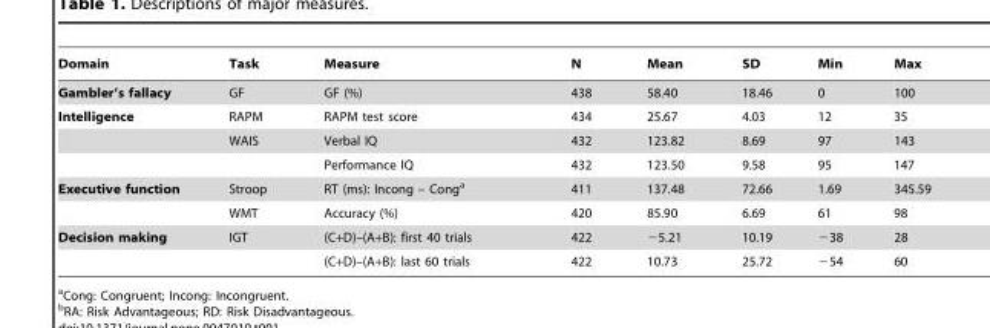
<table><thead><tr><td>Domain</td><td>Task</td><td>Measure</td><td>N</td><td>Mean</td><td>SD</td><td>Min</td><td>Max</td></tr></thead><tbody><tr><td>Gambler’s fallacy</td><td>GF</td><td>GF (%)</td><td>438</td><td>58.40</td><td>18.46</td><td>0</td><td>100</td></tr><tr><td rowspan="3">Intelligence</td><td>RAPM</td><td>RAPM test score</td><td>434</td><td>25.67</td><td>4.03</td><td>12</td><td>35</td></tr><tr><td>WAIS</td><td>Verbal IQ</td><td>432</td><td>123.82</td><td>8.69</td><td>97</td><td>143</td></tr><tr><td></td><td>Performance IQ</td><td>432</td><td>123.50</td><td>9.58</td><td>95</td><td>147</td></tr><tr><td rowspan="2">Executive function</td><td>Stroop</td><td>RT (ms): Incong – Cong<sup>a</sup></td><td>411</td><td>137.48</td><td>72.66</td><td>1.69</td><td>345.59</td></tr><tr><td>WMT</td><td>Accuracy (%)</td><td>420</td><td>85.90</td><td>6.69</td><td>61</td><td>98</td></tr><tr><td rowspan="2">Decision making</td><td>IGT</td><td>(C+D)–(A+B): first 40 trials</td><td>422</td><td>−5.21</td><td>10.19</td><td>−38</td><td>28</td></tr><tr><td></td><td>(C+D)–(A+B): last 60 trials</td><td>422</td><td>10.73</td><td>25.72</td><td>−54</td><td>60</td></tr></tbody></table>